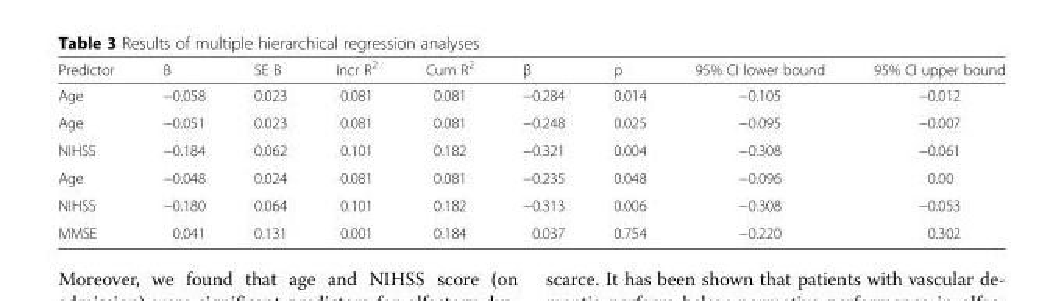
<table><thead><tr><td>Predictor</td><td>B</td><td>SE B</td><td>Incr R<sup>2</sup></td><td>Cum R<sup>2</sup></td><td>β</td><td>p</td><td>95% CI lower bound</td><td>95% CI upper bound</td></tr></thead><tbody><tr><td>Age</td><td>−0.058</td><td>0.023</td><td>0.081</td><td>0.081</td><td>−0.284</td><td>0.014</td><td>−0.105</td><td>−0.012</td></tr><tr><td>Age</td><td>−0.051</td><td>0.023</td><td>0.081</td><td>0.081</td><td>−0.248</td><td>0.025</td><td>−0.095</td><td>−0.007</td></tr><tr><td>NIHSS</td><td>−0.184</td><td>0.062</td><td>0.101</td><td>0.182</td><td>−0.321</td><td>0.004</td><td>−0.308</td><td>−0.061</td></tr><tr><td>Age</td><td>−0.048</td><td>0.024</td><td>0.081</td><td>0.081</td><td>−0.235</td><td>0.048</td><td>−0.096</td><td>0.00</td></tr><tr><td>NIHSS</td><td>−0.180</td><td>0.064</td><td>0.101</td><td>0.182</td><td>−0.313</td><td>0.006</td><td>−0.308</td><td>−0.053</td></tr><tr><td>MMSE</td><td>0.041</td><td>0.131</td><td>0.001</td><td>0.184</td><td>0.037</td><td>0.754</td><td>−0.220</td><td>0.302</td></tr></tbody></table>